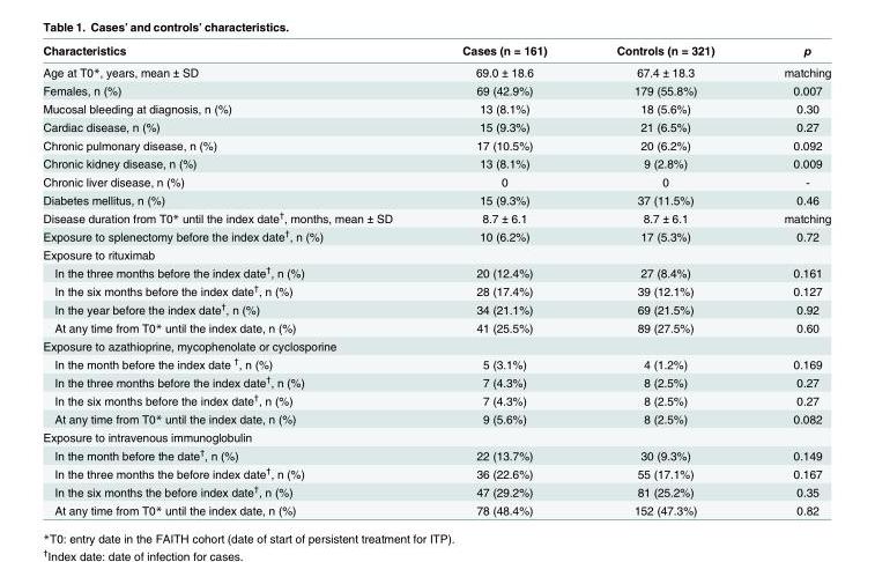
<table><thead><tr><td>Characteristics</td><td>Cases (n = 161)</td><td>Controls (n = 321)</td><td>p</td></tr></thead><tbody><tr><td>Age at T0*, years, mean ± SD</td><td>69.0 ± 18.6</td><td>67.4 ± 18.3</td><td>matching</td></tr><tr><td>Females, n (%)</td><td>69 (42.9%)</td><td>179 (55.8%)</td><td>0.007</td></tr><tr><td>Mucosal bleeding at diagnosis, n (%)</td><td>13 (8.1%)</td><td>18 (5.6%)</td><td>0.30</td></tr><tr><td>Cardiac disease, n (%)</td><td>15 (9.3%)</td><td>21 (6.5%)</td><td>0.27</td></tr><tr><td>Chronic pulmonary disease, n (%)</td><td>17 (10.5%)</td><td>20 (6.2%)</td><td>0.092</td></tr><tr><td>Chronic kidney disease, n (%)</td><td>13 (8.1%)</td><td>9 (2.8%)</td><td>0.009</td></tr><tr><td>Chronic liver disease, n (%)</td><td>0</td><td>0</td><td>-</td></tr><tr><td>Diabetes mellitus, n (%)</td><td>15 (9.3%)</td><td>37 (11.5%)</td><td>0.46</td></tr><tr><td>Disease duration from T0* until the index date<sup>†</sup>, months, mean ± SD</td><td>8.7 ± 6.1</td><td>8.7 ± 6.1</td><td>matching</td></tr><tr><td>Exposure to splenectomy before the index date<sup>†</sup>, n (%)</td><td>10 (6.2%)</td><td>17 (5.3%)</td><td>0.72</td></tr><tr><td colspan="4">Exposure to rituximab</td></tr><tr><td>In the three months before the index date<sup>†</sup>, n (%)</td><td>20 (12.4%)</td><td>27 (8.4%)</td><td>0.161</td></tr><tr><td>In the six months before the index date<sup>†</sup>, n (%)</td><td>28 (17.4%)</td><td>39 (12.1%)</td><td>0.127</td></tr><tr><td>In the year before the index date<sup>†</sup>, n (%)</td><td>34 (21.1%)</td><td>69 (21.5%)</td><td>0.92</td></tr><tr><td>At any time from T0* until the index date, n (%)</td><td>41 (25.5%)</td><td>89 (27.5%)</td><td>0.60</td></tr><tr><td colspan="4">Exposure to azathioprine, mycophenolate or cyclosporine</td></tr><tr><td>In the month before the index date <sup>†</sup>, n (%)</td><td>5 (3.1%)</td><td>4 (1.2%)</td><td>0.169</td></tr><tr><td>In the three months before the index date<sup>†</sup>, n (%)</td><td>7 (4.3%)</td><td>8 (2.5%)</td><td>0.27</td></tr><tr><td>In the six months before the index date<sup>†</sup>, n (%)</td><td>7 (4.3%)</td><td>8 (2.5%)</td><td>0.27</td></tr><tr><td>At any time from T0* until the index date, n (%)</td><td>9 (5.6%)</td><td>8 (2.5%)</td><td>0.082</td></tr><tr><td colspan="4">Exposure to intravenous immunoglobulin</td></tr><tr><td>In the month before the date<sup>†</sup>, n (%)</td><td>22 (13.7%)</td><td>30 (9.3%)</td><td>0.149</td></tr><tr><td>In the three months the before index date<sup>†</sup>, n (%)</td><td>36 (22.6%)</td><td>55 (17.1%)</td><td>0.167</td></tr><tr><td>In the six months the before index date<sup>†</sup>, n (%)</td><td>47 (29.2%)</td><td>81 (25.2%)</td><td>0.35</td></tr><tr><td>At any time from T0* until the index date, n (%)</td><td>78 (48.4%)</td><td>152 (47.3%)</td><td>0.82</td></tr></tbody></table>